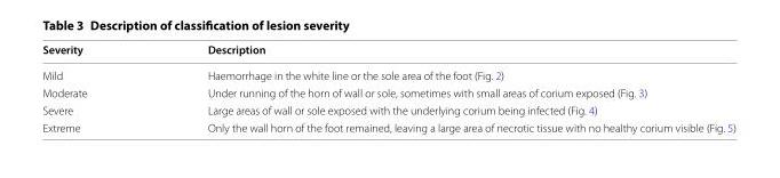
<table><thead><tr><td>Severity</td><td>Description</td></tr></thead><tbody><tr><td>Mild</td><td>Haemorrhage in the white line or the sole area of the foot (Fig. 2)</td></tr><tr><td>Moderate</td><td>Under running of the horn of wall or sole, sometimes with small areas of corium exposed (Fig. 3)</td></tr><tr><td>Severe</td><td>Large areas of wall or sole exposed with the underlying corium being infected (Fig. 4)</td></tr><tr><td>Extreme</td><td>Only the wall horn of the foot remained, leaving a large area of necrotic tissue with no healthy corium visible (Fig. 5)</td></tr></tbody></table>